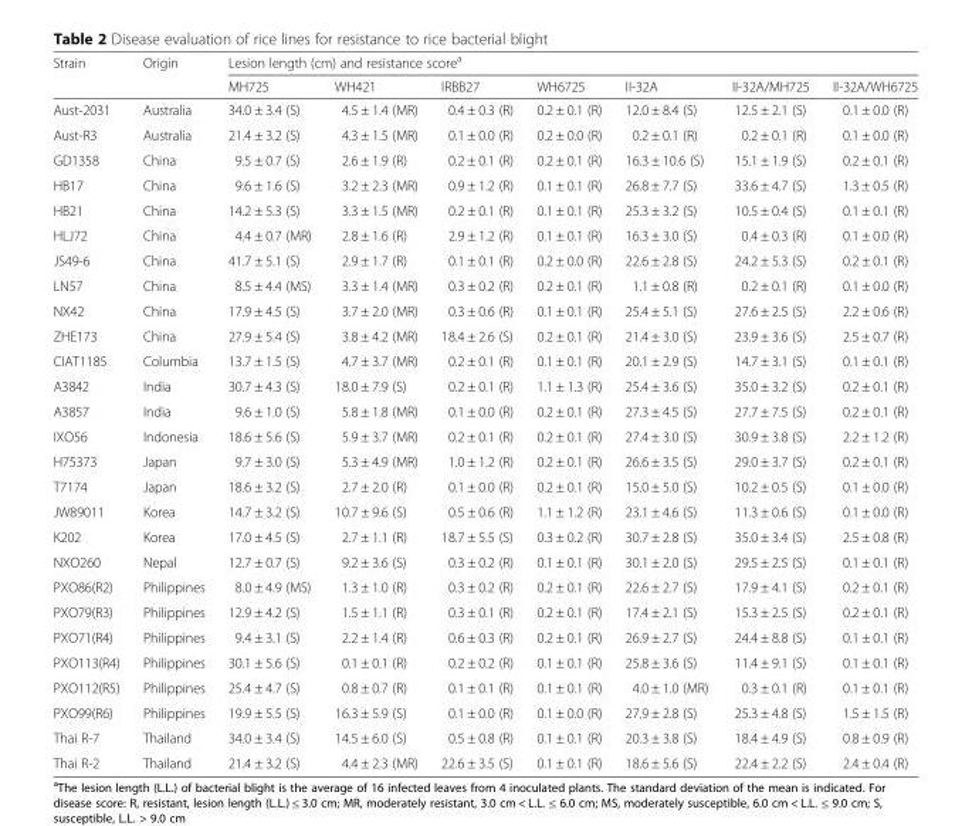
<table><thead><tr><td rowspan="2">Strain</td><td rowspan="2">Origin</td><td colspan="7">Lesion length (cm) and resistance score<sup>a</sup></td></tr><tr><td>MH725</td><td>WH421</td><td>IRBB27</td><td>WH6725</td><td>II-32A</td><td>II-32A/MH725</td><td>II-32A/WH6725</td></tr></thead><tbody><tr><td>Aust-2031</td><td>Australia</td><td>34.0 ± 3.4 (S)</td><td>4.5 ± 1.4 (MR)</td><td>0.4 ± 0.3 (R)</td><td>0.2 ± 0.1 (R)</td><td>12.0 ± 8.4 (S)</td><td>12.5 ± 2.1 (S)</td><td>0.1 ± 0.0 (R)</td></tr><tr><td>Aust-R3</td><td>Australia</td><td>21.4 ± 3.2 (S)</td><td>4.3 ± 1.5 (MR)</td><td>0.1 ± 0.0 (R)</td><td>0.2 ± 0.0 (R)</td><td>0.2 ± 0.1 (R)</td><td>0.2 ± 0.1 (R)</td><td>0.1 ± 0.0 (R)</td></tr><tr><td>GD1358</td><td>China</td><td>9.5 ± 0.7 (S)</td><td>2.6 ± 1.9 (R)</td><td>0.2 ± 0.1 (R)</td><td>0.2 ± 0.1 (R)</td><td>16.3 ± 10.6 (S)</td><td>15.1 ± 1.9 (S)</td><td>0.2 ± 0.1 (R)</td></tr><tr><td>HB17</td><td>China</td><td>9.6 ± 1.6 (S)</td><td>3.2 ± 2.3 (MR)</td><td>0.9 ± 1.2 (R)</td><td>0.1 ± 0.1 (R)</td><td>26.8 ± 7.7 (S)</td><td>33.6 ± 4.7 (S)</td><td>1.3 ± 0.5 (R)</td></tr><tr><td>HB21</td><td>China</td><td>14.2 ± 5.3 (S)</td><td>3.3 ± 1.5 (MR)</td><td>0.2 ± 0.1 (R)</td><td>0.1 ± 0.1 (R)</td><td>25.3 ± 3.2 (S)</td><td>10.5 ± 0.4 (S)</td><td>0.1 ± 0.1 (R)</td></tr><tr><td>HLJ72</td><td>China</td><td>4.4 ± 0.7 (MR)</td><td>2.8 ± 1.6 (R)</td><td>2.9 ± 1.2 (R)</td><td>0.1 ± 0.1 (R)</td><td>16.3 ± 3.0 (S)</td><td>0.4 ± 0.3 (R)</td><td>0.1 ± 0.0 (R)</td></tr><tr><td>JS49-6</td><td>China</td><td>41.7 ± 5.1 (S)</td><td>2.9 ± 1.7 (R)</td><td>0.1 ± 0.1 (R)</td><td>0.2 ± 0.0 (R)</td><td>22.6 ± 2.8 (S)</td><td>24.2 ± 5.3 (S)</td><td>0.2 ± 0.1 (R)</td></tr><tr><td>LN57</td><td>China</td><td>8.5 ± 4.4 (MS)</td><td>3.3 ± 1.4 (MR)</td><td>0.3 ± 0.2 (R)</td><td>0.2 ± 0.1 (R)</td><td>1.1 ± 0.8 (R)</td><td>0.2 ± 0.1 (R)</td><td>0.1 ± 0.0 (R)</td></tr><tr><td>NX42</td><td>China</td><td>17.9 ± 4.5 (S)</td><td>3.7 ± 2.0 (MR)</td><td>0.3 ± 0.6 (R)</td><td>0.1 ± 0.1 (R)</td><td>25.4 ± 5.1 (S)</td><td>27.6 ± 2.5 (S)</td><td>2.2 ± 0.6 (R)</td></tr><tr><td>ZHE173</td><td>China</td><td>27.9 ± 5.4 (S)</td><td>3.8 ± 4.2 (MR)</td><td>18.4 ± 2.6 (S)</td><td>0.2 ± 0.1 (R)</td><td>21.4 ± 3.0 (S)</td><td>23.9 ± 3.6 (S)</td><td>2.5 ± 0.7 (R)</td></tr><tr><td>CIAT1185</td><td>Columbia</td><td>13.7 ± 1.5 (S)</td><td>4.7 ± 3.7 (MR)</td><td>0.2 ± 0.1 (R)</td><td>0.1 ± 0.1 (R)</td><td>20.1 ± 2.9 (S)</td><td>14.7 ± 3.1 (S)</td><td>0.1 ± 0.1 (R)</td></tr><tr><td>A3842</td><td>India</td><td>30.7 ± 4.3 (S)</td><td>18.0 ± 7.9 (S)</td><td>0.2 ± 0.1 (R)</td><td>1.1 ± 1.3 (R)</td><td>25.4 ± 3.6 (S)</td><td>35.0 ± 3.2 (S)</td><td>0.2 ± 0.1 (R)</td></tr><tr><td>A3857</td><td>India</td><td>9.6 ± 1.0 (S)</td><td>5.8 ± 1.8 (MR)</td><td>0.1 ± 0.0 (R)</td><td>0.2 ± 0.1 (R)</td><td>27.3 ± 4.5 (S)</td><td>27.7 ± 7.5 (S)</td><td>0.2 ± 0.1 (R)</td></tr><tr><td>IXO56</td><td>Indonesia</td><td>18.6 ± 5.6 (S)</td><td>5.9 ± 3.7 (MR)</td><td>0.2 ± 0.1 (R)</td><td>0.2 ± 0.1 (R)</td><td>27.4 ± 3.0 (S)</td><td>30.9 ± 3.8 (S)</td><td>2.2 ± 1.2 (R)</td></tr><tr><td>H75373</td><td>Japan</td><td>9.7 ± 3.0 (S)</td><td>5.3 ± 4.9 (MR)</td><td>1.0 ± 1.2 (R)</td><td>0.2 ± 0.1 (R)</td><td>26.6 ± 3.5 (S)</td><td>29.0 ± 3.7 (S)</td><td>0.2 ± 0.1 (R)</td></tr><tr><td>T7174</td><td>Japan</td><td>18.6 ± 3.2 (S)</td><td>2.7 ± 2.0 (R)</td><td>0.1 ± 0.0 (R)</td><td>0.2 ± 0.1 (R)</td><td>15.0 ± 5.0 (S)</td><td>10.2 ± 0.5 (S)</td><td>0.1 ± 0.0 (R)</td></tr><tr><td>JW89011</td><td>Korea</td><td>14.7 ± 3.2 (S)</td><td>10.7 ± 9.6 (S)</td><td>0.5 ± 0.6 (R)</td><td>1.1 ± 1.2 (R)</td><td>23.1 ± 4.6 (S)</td><td>11.3 ± 0.6 (S)</td><td>0.1 ± 0.0 (R)</td></tr><tr><td>K202</td><td>Korea</td><td>17.0 ± 4.5 (S)</td><td>2.7 ± 1.1 (R)</td><td>18.7 ± 5.5 (S)</td><td>0.3 ± 0.2 (R)</td><td>30.7 ± 2.8 (S)</td><td>35.0 ± 3.4 (S)</td><td>2.5 ± 0.8 (R)</td></tr><tr><td>NXO260</td><td>Nepal</td><td>12.7 ± 0.7 (S)</td><td>9.2 ± 3.6 (S)</td><td>0.3 ± 0.2 (R)</td><td>0.1 ± 0.1 (R)</td><td>30.1 ± 2.0 (S)</td><td>29.5 ± 2.5 (S)</td><td>0.1 ± 0.1 (R)</td></tr><tr><td>PXO86(R2)</td><td>Philippines</td><td>8.0 ± 4.9 (MS)</td><td>1.3 ± 1.0 (R)</td><td>0.3 ± 0.2 (R)</td><td>0.2 ± 0.1 (R)</td><td>22.6 ± 2.7 (S)</td><td>17.9 ± 4.1 (S)</td><td>0.2 ± 0.1 (R)</td></tr><tr><td>PXO79(R3)</td><td>Philippines</td><td>12.9 ± 4.2 (S)</td><td>1.5 ± 1.1 (R)</td><td>0.3 ± 0.1 (R)</td><td>0.2 ± 0.1 (R)</td><td>17.4 ± 2.1 (S)</td><td>15.3 ± 2.5 (S)</td><td>0.2 ± 0.1 (R)</td></tr><tr><td>PXO71(R4)</td><td>Philippines</td><td>9.4 ± 3.1 (S)</td><td>2.2 ± 1.4 (R)</td><td>0.6 ± 0.3 (R)</td><td>0.2 ± 0.1 (R)</td><td>26.9 ± 2.7 (S)</td><td>24.4 ± 8.8 (S)</td><td>0.1 ± 0.1 (R)</td></tr><tr><td>PXO113(R4)</td><td>Philippines</td><td>30.1 ± 5.6 (S)</td><td>0.1 ± 0.1 (R)</td><td>0.2 ± 0.2 (R)</td><td>0.1 ± 0.1 (R)</td><td>25.8 ± 3.6 (S)</td><td>11.4 ± 9.1 (S)</td><td>0.1 ± 0.1 (R)</td></tr><tr><td>PXO112(R5)</td><td>Philippines</td><td>25.4 ± 4.7 (S)</td><td>0.8 ± 0.7 (R)</td><td>0.1 ± 0.1 (R)</td><td>0.1 ± 0.1 (R)</td><td>4.0 ± 1.0 (MR)</td><td>0.3 ± 0.1 (R)</td><td>0.1 ± 0.1 (R)</td></tr><tr><td>PXO99(R6)</td><td>Philippines</td><td>19.9 ± 5.5 (S)</td><td>16.3 ± 5.9 (S)</td><td>0.1 ± 0.0 (R)</td><td>0.1 ± 0.0 (R)</td><td>27.9 ± 2.8 (S)</td><td>25.3 ± 4.8 (S)</td><td>1.5 ± 1.5 (R)</td></tr><tr><td>Thai R-7</td><td>Thailand</td><td>34.0 ± 3.4 (S)</td><td>14.5 ± 6.0 (S)</td><td>0.5 ± 0.8 (R)</td><td>0.1 ± 0.1 (R)</td><td>20.3 ± 3.8 (S)</td><td>18.4 ± 4.9 (S)</td><td>0.8 ± 0.9 (R)</td></tr><tr><td>Thai R-2</td><td>Thailand</td><td>21.4 ± 3.2 (S)</td><td>4.4 ± 2.3 (MR)</td><td>22.6 ± 3.5 (S)</td><td>0.1 ± 0.1 (R)</td><td>18.6 ± 5.6 (S)</td><td>22.4 ± 2.2 (S)</td><td>2.4 ± 0.4 (R)</td></tr></tbody></table>